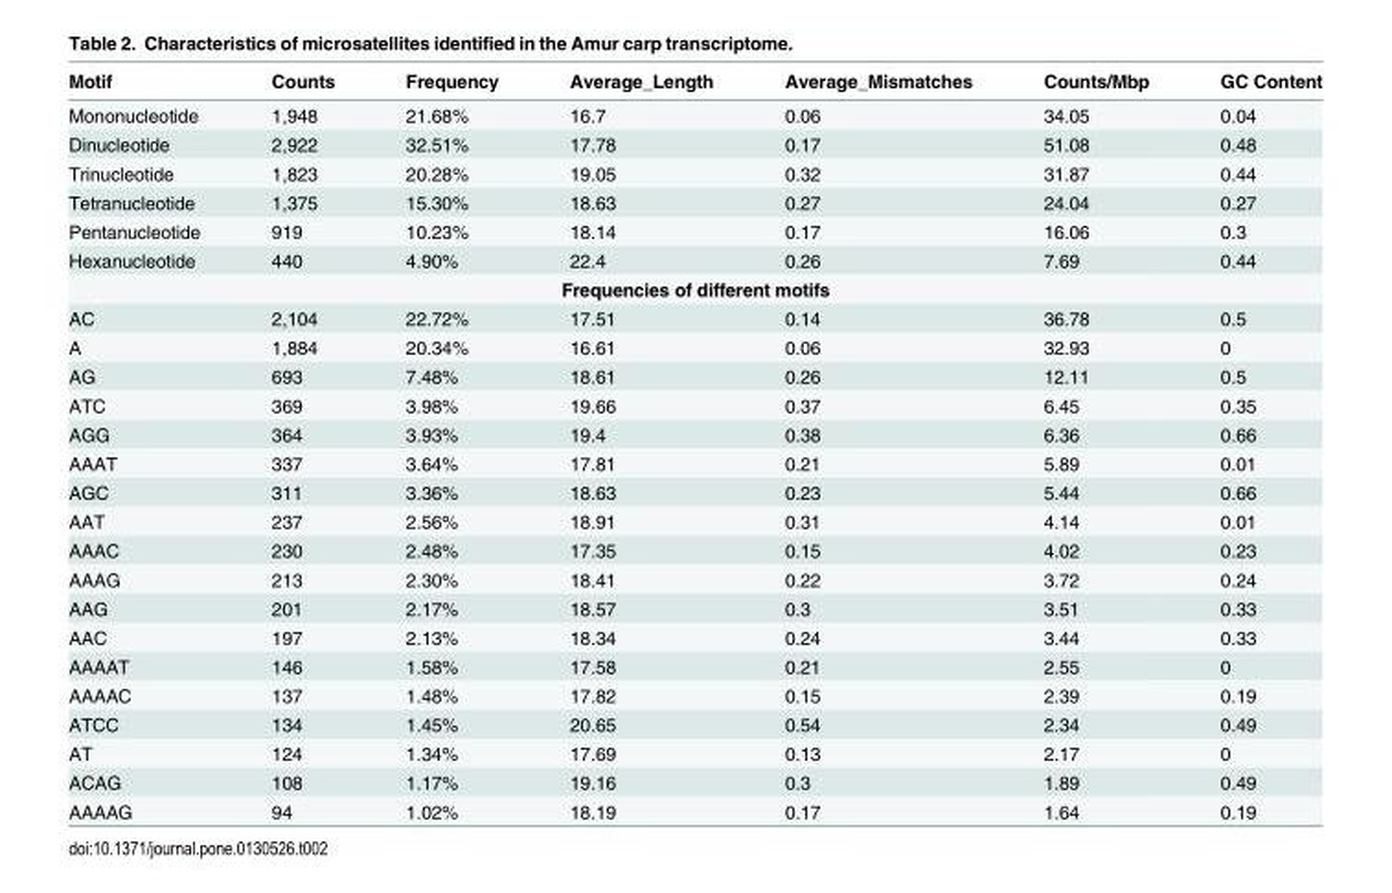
<table><thead><tr><td>Motif</td><td>Counts</td><td>Frequency</td><td>Average_Length</td><td>Average_Mismatches</td><td>Counts/Mbp</td><td>GC Content</td></tr></thead><tbody><tr><td>Mononucleotide</td><td>1,948</td><td>21.68%</td><td>16.7</td><td>0.06</td><td>34.05</td><td>0.04</td></tr><tr><td>Dinucleotide</td><td>2,922</td><td>32.51%</td><td>17.78</td><td>0.17</td><td>51.08</td><td>0.48</td></tr><tr><td>Trinucleotide</td><td>1,823</td><td>20.28%</td><td>19.05</td><td>0.32</td><td>31.87</td><td>0.44</td></tr><tr><td>Tetranucleotide</td><td>1,375</td><td>15.30%</td><td>18.63</td><td>0.27</td><td>24.04</td><td>0.27</td></tr><tr><td>Pentanucleotide</td><td>919</td><td>10.23%</td><td>18.14</td><td>0.17</td><td>16.06</td><td>0.3</td></tr><tr><td>Hexanucleotide</td><td>440</td><td>4.90%</td><td>22.4</td><td>0.26</td><td>7.69</td><td>0.44</td></tr><tr><td colspan="7">Frequencies of different motifs</td></tr><tr><td>AC</td><td>2,104</td><td>22.72%</td><td>17.51</td><td>0.14</td><td>36.78</td><td>0.5</td></tr><tr><td>A</td><td>1,884</td><td>20.34%</td><td>16.61</td><td>0.06</td><td>32.93</td><td>0</td></tr><tr><td>AG</td><td>693</td><td>7.48%</td><td>18.61</td><td>0.26</td><td>12.11</td><td>0.5</td></tr><tr><td>ATC</td><td>369</td><td>3.98%</td><td>19.66</td><td>0.37</td><td>6.45</td><td>0.35</td></tr><tr><td>AGG</td><td>364</td><td>3.93%</td><td>19.4</td><td>0.38</td><td>6.36</td><td>0.66</td></tr><tr><td>AAAT</td><td>337</td><td>3.64%</td><td>17.81</td><td>0.21</td><td>5.89</td><td>0.01</td></tr><tr><td>AGC</td><td>311</td><td>3.36%</td><td>18.63</td><td>0.23</td><td>5.44</td><td>0.66</td></tr><tr><td>AAT</td><td>237</td><td>2.56%</td><td>18.91</td><td>0.31</td><td>4.14</td><td>0.01</td></tr><tr><td>AAAC</td><td>230</td><td>2.48%</td><td>17.35</td><td>0.15</td><td>4.02</td><td>0.23</td></tr><tr><td>AAAG</td><td>213</td><td>2.30%</td><td>18.41</td><td>0.22</td><td>3.72</td><td>0.24</td></tr><tr><td>AAG</td><td>201</td><td>2.17%</td><td>18.57</td><td>0.3</td><td>3.51</td><td>0.33</td></tr><tr><td>AAC</td><td>197</td><td>2.13%</td><td>18.34</td><td>0.24</td><td>3.44</td><td>0.33</td></tr><tr><td>AAAAT</td><td>146</td><td>1.58%</td><td>17.58</td><td>0.21</td><td>2.55</td><td>0</td></tr><tr><td>AAAAC</td><td>137</td><td>1.48%</td><td>17.82</td><td>0.15</td><td>2.39</td><td>0.19</td></tr><tr><td>ATCC</td><td>134</td><td>1.45%</td><td>20.65</td><td>0.54</td><td>2.34</td><td>0.49</td></tr><tr><td>AT</td><td>124</td><td>1.34%</td><td>17.69</td><td>0.13</td><td>2.17</td><td>0</td></tr><tr><td>ACAG</td><td>108</td><td>1.17%</td><td>19.16</td><td>0.3</td><td>1.89</td><td>0.49</td></tr><tr><td>AAAAG</td><td>94</td><td>1.02%</td><td>18.19</td><td>0.17</td><td>1.64</td><td>0.19</td></tr></tbody></table>